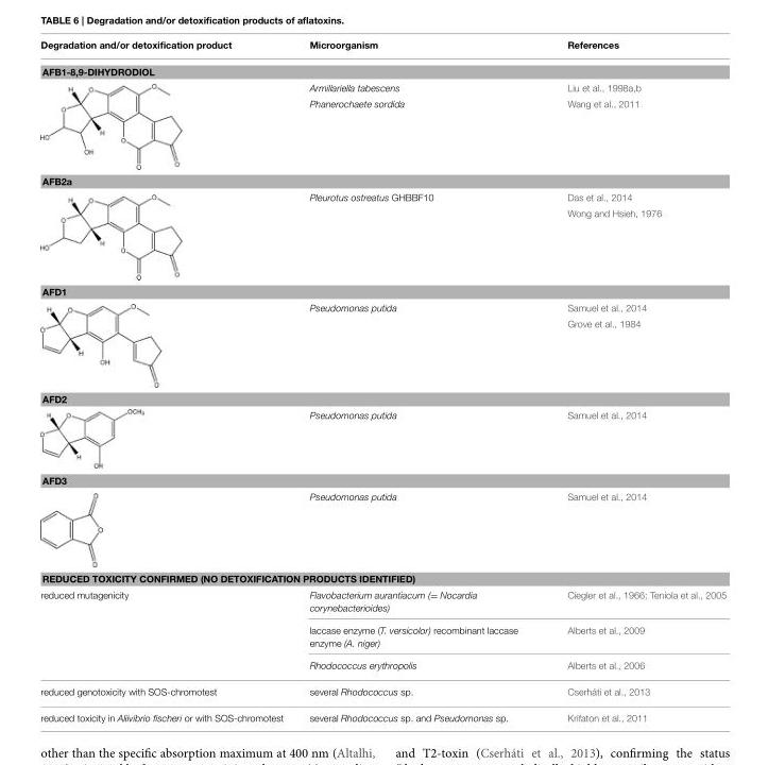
<table><thead><tr><td>Degradation and/or detoxification product</td><td>Microorganism</td><td>References</td></tr></thead><tbody><tr><td colspan="3">AFB1-8,9-DIHYDRODIOL</td></tr><tr><td rowspan="2"></td><td>Armillariella tabescens</td><td>Liu et al., 1998a,b</td></tr><tr><td>Phanerochaete sordida</td><td>Wang et al., 2011</td></tr><tr><td colspan="3">AFB2a</td></tr><tr><td rowspan="2"></td><td>Pleurotus ostreatus GHBBF10</td><td>Das et al., 2014</td></tr><tr><td></td><td>Wong and Hsieh, 1976</td></tr><tr><td colspan="3">AFD1</td></tr><tr><td rowspan="2"></td><td>Pseudomonas putida</td><td>Samuel et al., 2014</td></tr><tr><td></td><td>Grove et al., 1984</td></tr><tr><td colspan="3">AFD2</td></tr><tr><td></td><td>Pseudomonas putida</td><td>Samuel et al., 2014</td></tr><tr><td colspan="3">AFD3</td></tr><tr><td></td><td>Pseudomonas putida</td><td>Samuel et al., 2014</td></tr><tr><td colspan="3">REDUCED TOXICITY CONFIRMED (NO DETOXIFICATION PRODUCTS IDENTIFIED)</td></tr><tr><td rowspan="3">reduced mutagenicity</td><td>Flavobacterium aurantiacum (= Nocardia corynebacterioides)</td><td>Ciegler et al., 1966; Teniola et al., 2005</td></tr><tr><td>laccase enzyme (T. versicolor) recombinant laccase enzyme (A. niger)</td><td>Alberts et al., 2009</td></tr><tr><td>Rhodococcus erythropolis</td><td>Alberts et al., 2006</td></tr><tr><td>reduced genotoxicity with SOS-chromotest</td><td>several Rhodococcus sp.</td><td>Cserháti et al., 2013</td></tr><tr><td>reduced toxicity in Aliivibrio fischeri or with SOS-chromotest</td><td>several Rhodococcus sp. and Pseudomonas sp.</td><td>Krifaton et al., 2011</td></tr></tbody></table>